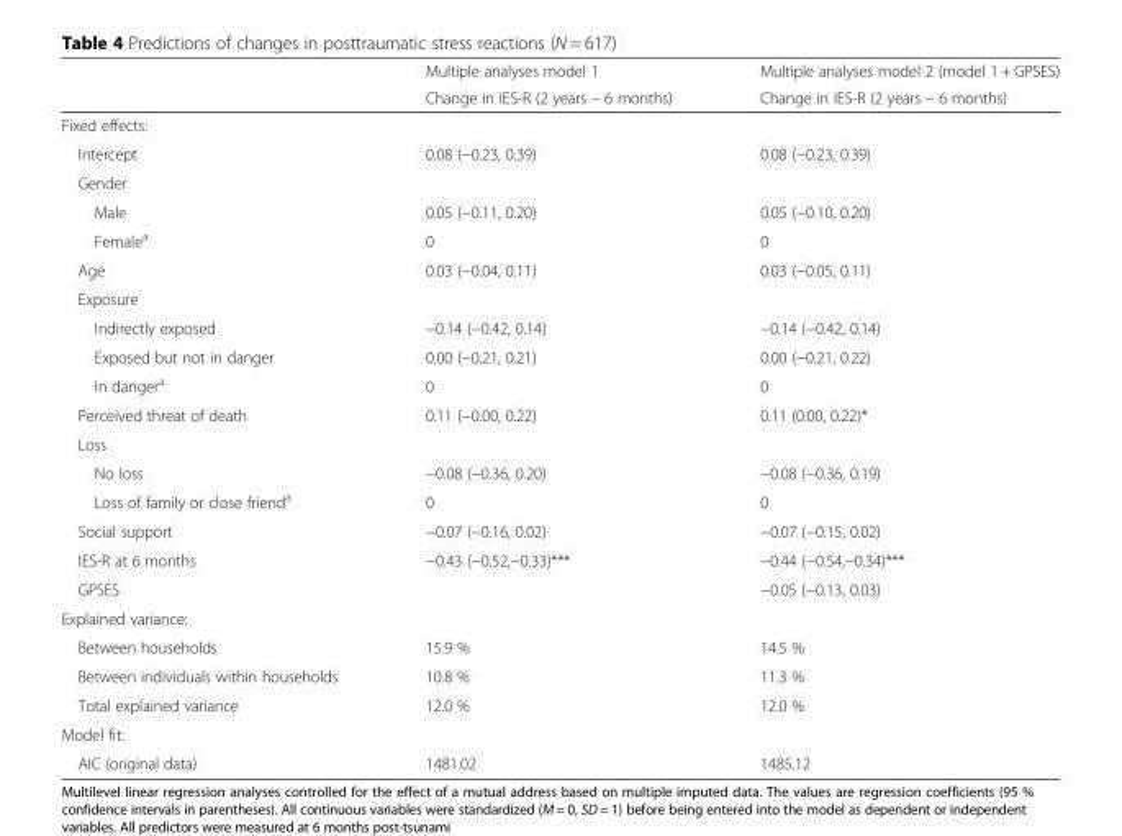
<table><thead><tr><td rowspan="2"></td><td rowspan="2">Multiple analyses model 1 Change in IES-R (2 years – 6 months)</td><td rowspan="2">Multiple analyses model 2 (model 1 + GPSES) Change in IES-R (2 years – 6 months)</td></tr><tr></tr></thead><tbody><tr><td colspan="3">Fixed effects:</td></tr><tr><td>Intercept</td><td>0.08 (−0.23, 0.39)</td><td>0.08 (−0.23, 0.39)</td></tr><tr><td colspan="3">Gender</td></tr><tr><td>Male</td><td>0.05 (−0.11, 0.20)</td><td>0.05 (−0.10, 0.20)</td></tr><tr><td>Female<sup>a</sup></td><td>0</td><td>0</td></tr><tr><td>Age</td><td>0.03 (−0.04, 0.11)</td><td>0.03 (−0.05, 0.11)</td></tr><tr><td colspan="3">Exposure</td></tr><tr><td>Indirectly exposed</td><td>−0.14 (−0.42, 0.14)</td><td>−0.14 (−0.42, 0.14)</td></tr><tr><td>Exposed but not in danger</td><td>0.00 (−0.21, 0.21)</td><td>0.00 (−0.21, 0.22)</td></tr><tr><td>In danger<sup>a</sup></td><td>0</td><td>0</td></tr><tr><td>Perceived threat of death</td><td>0.11 (−0.00, 0.22)</td><td>0.11 (0.00, 0.22)*</td></tr><tr><td colspan="3">Loss</td></tr><tr><td>No loss</td><td>−0.08 (−0.36, 0.20)</td><td>−0.08 (−0.36, 0.19)</td></tr><tr><td>Loss of family or close friend<sup>a</sup></td><td>0</td><td>0</td></tr><tr><td>Social support</td><td>−0.07 (−0.16, 0.02)</td><td>−0.07 (−0.15, 0.02)</td></tr><tr><td>IES-R at 6 months</td><td>−0.43 (−0.52,−0.33)***</td><td>−0.44 (−0.54,−0.34)***</td></tr><tr><td>GPSES</td><td></td><td>−0.05 (−0.13, 0.03)</td></tr><tr><td colspan="3">Explained variance:</td></tr><tr><td>Between households</td><td>15.9 %</td><td>14.5 %</td></tr><tr><td>Between individuals within households</td><td>10.8 %</td><td>11.3 %</td></tr><tr><td>Total explained variance</td><td>12.0 %</td><td>12.0 %</td></tr><tr><td colspan="3">Model fit:</td></tr><tr><td>AIC (original data)</td><td>1481.02</td><td>1485.12</td></tr></tbody></table>